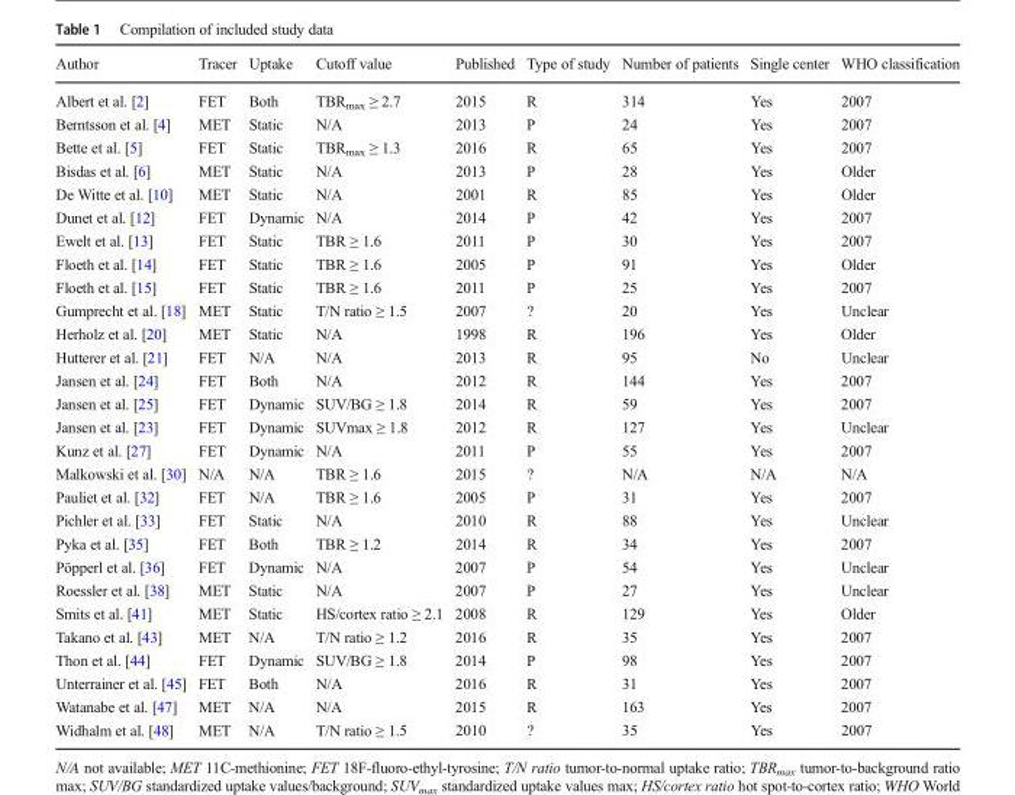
<table><thead><tr><td>Author</td><td>Tracer</td><td>Uptake</td><td>Cutoff value</td><td>Published</td><td>Type of study</td><td>Number of patients</td><td>Single center</td><td>WHO classification</td></tr></thead><tbody><tr><td>Albert et al. [2]</td><td>FET</td><td>Both</td><td>TBR<sub>max</sub> ≥ 2.7</td><td>2015</td><td>R</td><td>314</td><td>Yes</td><td>2007</td></tr><tr><td>Berntsson et al. [4]</td><td>MET</td><td>Static</td><td>N/A</td><td>2013</td><td>P</td><td>24</td><td>Yes</td><td>2007</td></tr><tr><td>Bette et al. [5]</td><td>FET</td><td>Static</td><td>TBR<sub>max</sub> ≥ 1.3</td><td>2016</td><td>R</td><td>65</td><td>Yes</td><td>2007</td></tr><tr><td>Bisdas et al. [6]</td><td>MET</td><td>Static</td><td>N/A</td><td>2013</td><td>P</td><td>28</td><td>Yes</td><td>Older</td></tr><tr><td>De Witte et al. [10]</td><td>MET</td><td>Static</td><td>N/A</td><td>2001</td><td>R</td><td>85</td><td>Yes</td><td>Older</td></tr><tr><td>Dunet et al. [12]</td><td>FET</td><td>Dynamic</td><td>N/A</td><td>2014</td><td>P</td><td>42</td><td>Yes</td><td>2007</td></tr><tr><td>Ewelt et al. [13]</td><td>FET</td><td>Static</td><td>TBR ≥ 1.6</td><td>2011</td><td>P</td><td>30</td><td>Yes</td><td>2007</td></tr><tr><td>Floeth et al. [14]</td><td>FET</td><td>Static</td><td>TBR ≥ 1.6</td><td>2005</td><td>P</td><td>91</td><td>Yes</td><td>Older</td></tr><tr><td>Floeth et al. [15]</td><td>FET</td><td>Static</td><td>TBR ≥ 1.6</td><td>2011</td><td>P</td><td>25</td><td>Yes</td><td>2007</td></tr><tr><td>Gumprecht et al. [18]</td><td>MET</td><td>Static</td><td>T/N ratio ≥ 1.5</td><td>2007</td><td>?</td><td>20</td><td>Yes</td><td>Unclear</td></tr><tr><td>Herholz et al. [20]</td><td>MET</td><td>Static</td><td>N/A</td><td>1998</td><td>R</td><td>196</td><td>Yes</td><td>Older</td></tr><tr><td>Hutterer et al. [21]</td><td>FET</td><td>N/A</td><td>N/A</td><td>2013</td><td>R</td><td>95</td><td>No</td><td>Unclear</td></tr><tr><td>Jansen et al. [24]</td><td>FET</td><td>Both</td><td>N/A</td><td>2012</td><td>R</td><td>144</td><td>Yes</td><td>2007</td></tr><tr><td>Jansen et al. [25]</td><td>FET</td><td>Dynamic</td><td>SUV/BG ≥ 1.8</td><td>2014</td><td>R</td><td>59</td><td>Yes</td><td>2007</td></tr><tr><td>Jansen et al. [23]</td><td>FET</td><td>Dynamic</td><td>SUVmax ≥ 1.8</td><td>2012</td><td>R</td><td>127</td><td>Yes</td><td>Unclear</td></tr><tr><td>Kunz et al. [27]</td><td>FET</td><td>Dynamic</td><td>N/A</td><td>2011</td><td>P</td><td>55</td><td>Yes</td><td>2007</td></tr><tr><td>Malkowski et al. [30]</td><td>N/A</td><td>N/A</td><td>TBR ≥ 1.6</td><td>2015</td><td>?</td><td>N/A</td><td>N/A</td><td>N/A</td></tr><tr><td>Pauliet et al. [32]</td><td>FET</td><td>N/A</td><td>TBR ≥ 1.6</td><td>2005</td><td>P</td><td>31</td><td>Yes</td><td>2007</td></tr><tr><td>Pichler et al. [33]</td><td>FET</td><td>Static</td><td>N/A</td><td>2010</td><td>R</td><td>88</td><td>Yes</td><td>Unclear</td></tr><tr><td>Pyka et al. [35]</td><td>FET</td><td>Both</td><td>TBR ≥ 1.2</td><td>2014</td><td>R</td><td>34</td><td>Yes</td><td>2007</td></tr><tr><td>Pöpperl et al. [36]</td><td>FET</td><td>Dynamic</td><td>N/A</td><td>2007</td><td>P</td><td>54</td><td>Yes</td><td>Unclear</td></tr><tr><td>Roessler et al. [38]</td><td>MET</td><td>Static</td><td>N/A</td><td>2007</td><td>P</td><td>27</td><td>Yes</td><td>Unclear</td></tr><tr><td>Smits et al. [41]</td><td>MET</td><td>Static</td><td>HS/cortex ratio ≥ 2.1</td><td>2008</td><td>R</td><td>129</td><td>Yes</td><td>Older</td></tr><tr><td>Takano et al. [43]</td><td>MET</td><td>N/A</td><td>T/N ratio ≥ 1.2</td><td>2016</td><td>R</td><td>35</td><td>Yes</td><td>2007</td></tr><tr><td>Thon et al. [44]</td><td>FET</td><td>Dynamic</td><td>SUV/BG ≥ 1.8</td><td>2014</td><td>P</td><td>98</td><td>Yes</td><td>2007</td></tr><tr><td>Unterrainer et al. [45]</td><td>FET</td><td>Both</td><td>N/A</td><td>2016</td><td>R</td><td>31</td><td>Yes</td><td>2007</td></tr><tr><td>Watanabe et al. [47]</td><td>MET</td><td>N/A</td><td>N/A</td><td>2015</td><td>R</td><td>163</td><td>Yes</td><td>2007</td></tr><tr><td>Widhalm et al. [48]</td><td>MET</td><td>N/A</td><td>T/N ratio ≥ 1.5</td><td>2010</td><td>?</td><td>35</td><td>Yes</td><td>2007</td></tr></tbody></table>